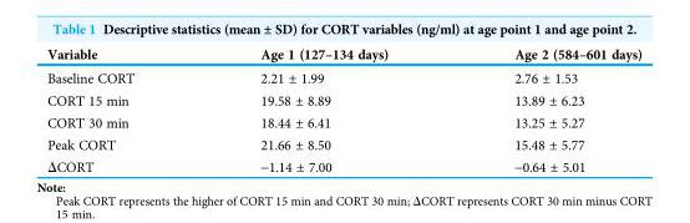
<table><thead><tr><td>Variable</td><td>Age 1 (127–134 days)</td><td>Age 2 (584–601 days)</td></tr></thead><tbody><tr><td>Baseline CORT</td><td>2.21 ± 1.99</td><td>2.76 ± 1.53</td></tr><tr><td>CORT 15 min</td><td>19.58 ± 8.89</td><td>13.89 ± 6.23</td></tr><tr><td>CORT 30 min</td><td>18.44 ± 6.41</td><td>13.25 ± 5.27</td></tr><tr><td>Peak CORT</td><td>21.66 ± 8.50</td><td>15.48 ± 5.77</td></tr><tr><td>ΔCORT</td><td>-1.14 ± 7.00</td><td>-0.64 ± 5.01</td></tr></tbody></table>